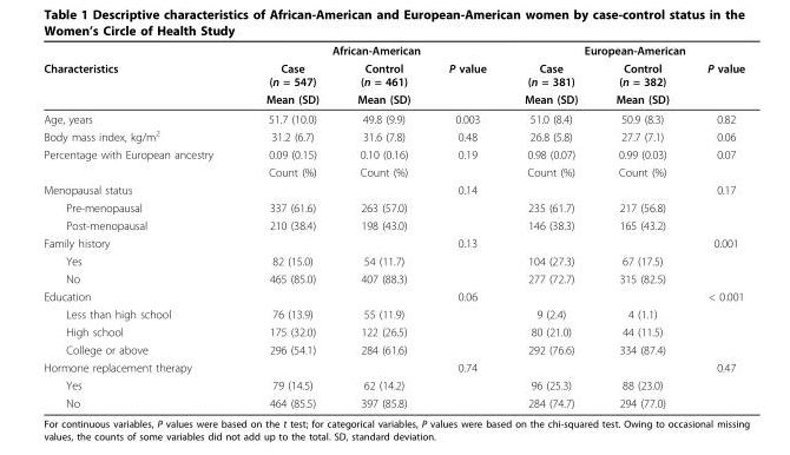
<table><thead><tr><td rowspan="3">Characteristics</td><td colspan="3">African-American</td><td colspan="3">European-American</td></tr><tr><td rowspan="2">Case (n = 547) Mean (SD)</td><td rowspan="2">Control (n = 461) Mean (SD)</td><td rowspan="2">P value</td><td rowspan="2">Case (n = 381) Mean (SD)</td><td rowspan="2">Control (n = 382) Mean (SD)</td><td rowspan="2">P value</td></tr><tr></tr></thead><tbody><tr><td>Age, years</td><td>51.7 (10.0)</td><td>49.8 (9.9)</td><td>0.003</td><td>51.0 (8.4)</td><td>50.9 (8.3)</td><td>0.82</td></tr><tr><td>Body mass index, kg/m<sup>2</sup></td><td>31.2 (6.7)</td><td>31.6 (7.8)</td><td>0.48</td><td>26.8 (5.8)</td><td>27.7 (7.1)</td><td>0.06</td></tr><tr><td rowspan="2">Percentage with European ancestry</td><td>0.09 (0.15)</td><td>0.10 (0.16)</td><td>0.19</td><td>0.98 (0.07)</td><td>0.99 (0.03)</td><td>0.07</td></tr><tr><td>Count (%)</td><td>Count (%)</td><td></td><td>Count (%)</td><td>Count (%)</td><td></td></tr><tr><td>Menopausal status</td><td></td><td></td><td>0.14</td><td></td><td></td><td>0.17</td></tr><tr><td>Pre-menopausal</td><td>337 (61.6)</td><td>263 (57.0)</td><td></td><td>235 (61.7)</td><td>217 (56.8)</td><td></td></tr><tr><td>Post-menopausal</td><td>210 (38.4)</td><td>198 (43.0)</td><td></td><td>146 (38.3)</td><td>165 (43.2)</td><td></td></tr><tr><td>Family history</td><td></td><td></td><td>0.13</td><td></td><td></td><td>0.001</td></tr><tr><td>Yes</td><td>82 (15.0)</td><td>54 (11.7)</td><td></td><td>104 (27.3)</td><td>67 (17.5)</td><td></td></tr><tr><td>No</td><td>465 (85.0)</td><td>407 (88.3)</td><td></td><td>277 (72.7)</td><td>315 (82.5)</td><td></td></tr><tr><td>Education</td><td></td><td></td><td>0.06</td><td></td><td></td><td>&lt; 0.001</td></tr><tr><td>Less than high school</td><td>76 (13.9)</td><td>55 (11.9)</td><td></td><td>9 (2.4)</td><td>4 (1.1)</td><td></td></tr><tr><td>High school</td><td>175 (32.0)</td><td>122 (26.5)</td><td></td><td>80 (21.0)</td><td>44 (11.5)</td><td></td></tr><tr><td>College or above</td><td>296 (54.1)</td><td>284 (61.6)</td><td></td><td>292 (76.6)</td><td>334 (87.4)</td><td></td></tr><tr><td>Hormone replacement therapy</td><td></td><td></td><td>0.74</td><td></td><td></td><td>0.47</td></tr><tr><td>Yes</td><td>79 (14.5)</td><td>62 (14.2)</td><td></td><td>96 (25.3)</td><td>88 (23.0)</td><td></td></tr><tr><td>No</td><td>464 (85.5)</td><td>397 (85.8)</td><td></td><td>284 (74.7)</td><td>294 (77.0)</td><td></td></tr></tbody></table>